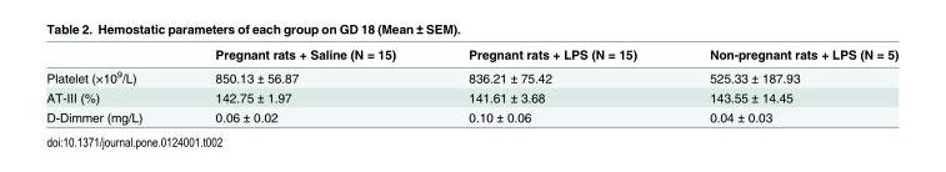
<table><thead><tr><td></td><td>Pregnant rats + Saline (N = 15)</td><td>Pregnant rats + LPS (N = 15)</td><td>Non-pregnant rats + LPS (N = 5)</td></tr></thead><tbody><tr><td>Platelet (×10<sup>9</sup>/L)</td><td>850.13 ± 56.87</td><td>836.21 ± 75.42</td><td>525.33 ± 187.93</td></tr><tr><td>AT-III (%)</td><td>142.75 ± 1.97</td><td>141.61 ± 3.68</td><td>143.55 ± 14.45</td></tr><tr><td>D-Dimmer (mg/L)</td><td>0.06 ± 0.02</td><td>0.10 ± 0.06</td><td>0.04 ± 0.03</td></tr></tbody></table>